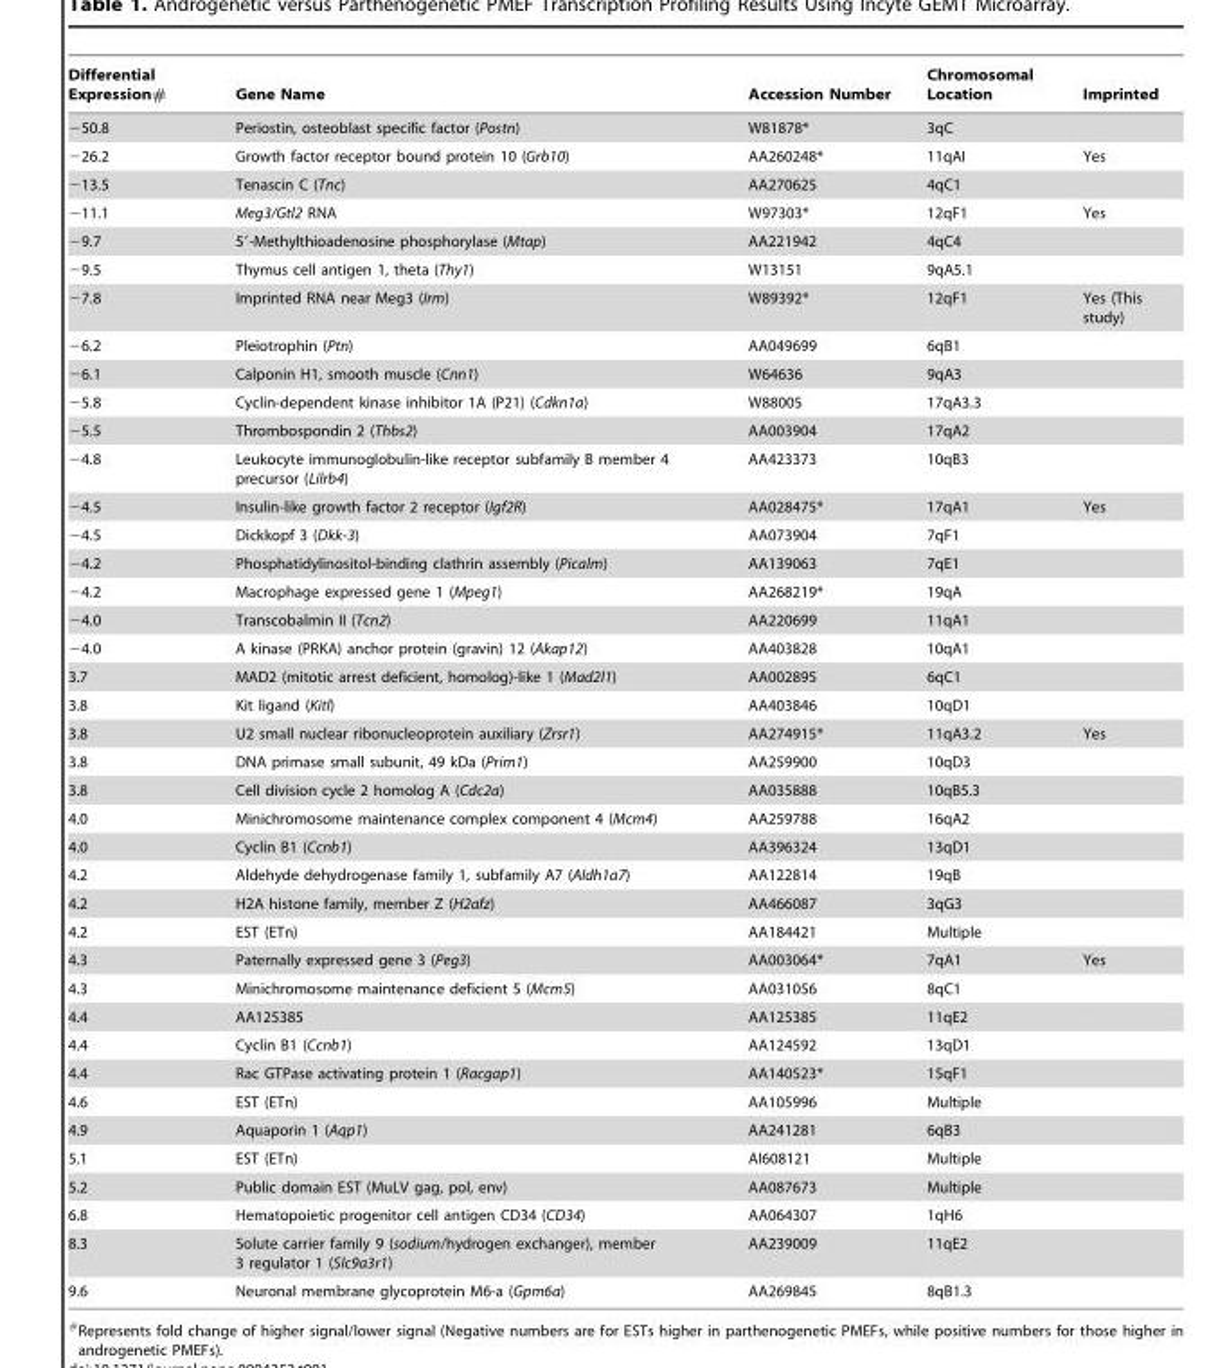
<table><thead><tr><td>Differential Expression#</td><td>Gene Name</td><td>Accession Number</td><td>Chromosomal Location</td><td>Imprinted</td></tr></thead><tbody><tr><td>−50.8</td><td>Periostin, osteoblast specific factor (Postn)</td><td>W81878*</td><td>3qC</td><td></td></tr><tr><td>−26.2</td><td>Growth factor receptor bound protein 10 (Grb10)</td><td>AA260248*</td><td>11qAI</td><td>Yes</td></tr><tr><td>−13.5</td><td>Tenascin C (Tnc)</td><td>AA270625</td><td>4qC1</td><td></td></tr><tr><td>−11.1</td><td>Meg3/Gtl2 RNA</td><td>W97303*</td><td>12qF1</td><td>Yes</td></tr><tr><td>−9.7</td><td>5′-Methylthioadenosine phosphorylase (Mtap)</td><td>AA221942</td><td>4qC4</td><td></td></tr><tr><td>−9.5</td><td>Thymus cell antigen 1, theta (Thy1)</td><td>W13151</td><td>9qA5.1</td><td></td></tr><tr><td>−7.8</td><td>Imprinted RNA near Meg3 (Irm)</td><td>W89392*</td><td>12qF1</td><td>Yes (This study)</td></tr><tr><td>−6.2</td><td>Pleiotrophin (Ptn)</td><td>AA049699</td><td>6qB1</td><td></td></tr><tr><td>−6.1</td><td>Calponin H1, smooth muscle (Cnn1)</td><td>W64636</td><td>9qA3</td><td></td></tr><tr><td>−5.8</td><td>Cyclin-dependent kinase inhibitor 1A (P21) (Cdkn1a)</td><td>W88005</td><td>17qA3.3</td><td></td></tr><tr><td>−5.5</td><td>Thrombospondin 2 (Thbs2)</td><td>AA003904</td><td>17qA2</td><td></td></tr><tr><td>−4.8</td><td>Leukocyte immunoglobulin-like receptor subfamily B member 4 precursor (Lilrb4)</td><td>AA423373</td><td>10qB3</td><td></td></tr><tr><td>−4.5</td><td>Insulin-like growth factor 2 receptor (Igf2R)</td><td>AA028475*</td><td>17qA1</td><td>Yes</td></tr><tr><td>−4.5</td><td>Dickkopf 3 (Dkk-3)</td><td>AA073904</td><td>7qF1</td><td></td></tr><tr><td>−4.2</td><td>Phosphatidylinositol-binding clathrin assembly (Picalm)</td><td>AA139063</td><td>7qE1</td><td></td></tr><tr><td>−4.2</td><td>Macrophage expressed gene 1 (Mpeg1)</td><td>AA268219*</td><td>19qA</td><td></td></tr><tr><td>−4.0</td><td>Transcobalmin II (Tcn2)</td><td>AA220699</td><td>11qA1</td><td></td></tr><tr><td>−4.0</td><td>A kinase (PRKA) anchor protein (gravin) 12 (Akap12)</td><td>AA403828</td><td>10qA1</td><td></td></tr><tr><td>3.7</td><td>MAD2 (mitotic arrest deficient, homolog)-like 1 (Mad2l1)</td><td>AA002895</td><td>6qC1</td><td></td></tr><tr><td>3.8</td><td>Kit ligand (Kitl)</td><td>AA403846</td><td>10qD1</td><td></td></tr><tr><td>3.8</td><td>U2 small nuclear ribonucleoprotein auxiliary (Zrsr1)</td><td>AA274915*</td><td>11qA3.2</td><td>Yes</td></tr><tr><td>3.8</td><td>DNA primase small subunit, 49 kDa (Prim1)</td><td>AA259900</td><td>10qD3</td><td></td></tr><tr><td>3.8</td><td>Cell division cycle 2 homolog A (Cdc2a)</td><td>AA035888</td><td>10qB5.3</td><td></td></tr><tr><td>4.0</td><td>Minichromosome maintenance complex component 4 (Mcm4)</td><td>AA259788</td><td>16qA2</td><td></td></tr><tr><td>4.0</td><td>Cyclin B1 (Ccnb1)</td><td>AA396324</td><td>13qD1</td><td></td></tr><tr><td>4.2</td><td>Aldehyde dehydrogenase family 1, subfamily A7 (Aldh1a7)</td><td>AA122814</td><td>19qB</td><td></td></tr><tr><td>4.2</td><td>H2A histone family, member Z (H2afz)</td><td>AA466087</td><td>3qG3</td><td></td></tr><tr><td>4.2</td><td>EST (ETn)</td><td>AA184421</td><td>Multiple</td><td></td></tr><tr><td>4.3</td><td>Paternally expressed gene 3 (Peg3)</td><td>AA003064*</td><td>7qA1</td><td>Yes</td></tr><tr><td>4.3</td><td>Minichromosome maintenance deficient 5 (Mcm5)</td><td>AA031056</td><td>8qC1</td><td></td></tr><tr><td>4.4</td><td>AA125385</td><td>AA125385</td><td>11qE2</td><td></td></tr><tr><td>4.4</td><td>Cyclin B1 (Ccnb1)</td><td>AA124592</td><td>13qD1</td><td></td></tr><tr><td>4.4</td><td>Rac GTPase activating protein 1 (Racgap1)</td><td>AA140523*</td><td>15qF1</td><td></td></tr><tr><td>4.6</td><td>EST (ETn)</td><td>AA105996</td><td>Multiple</td><td></td></tr><tr><td>4.9</td><td>Aquaporin 1 (Aqp1)</td><td>AA241281</td><td>6qB3</td><td></td></tr><tr><td>5.1</td><td>EST (ETn)</td><td>AI608121</td><td>Multiple</td><td></td></tr><tr><td>5.2</td><td>Public domain EST (MuLV gag, pol, env)</td><td>AA087673</td><td>Multiple</td><td></td></tr><tr><td>6.8</td><td>Hematopoietic progenitor cell antigen CD34 (CD34)</td><td>AA064307</td><td>1qH6</td><td></td></tr><tr><td>8.3</td><td>Solute carrier family 9 (sodium/hydrogen exchanger), member 3 regulator 1 (Slc9a3r1)</td><td>AA239009</td><td>11qE2</td><td></td></tr><tr><td>9.6</td><td>Neuronal membrane glycoprotein M6-a (Gpm6a)</td><td>AA269845</td><td>8qB1.3</td><td></td></tr></tbody></table>